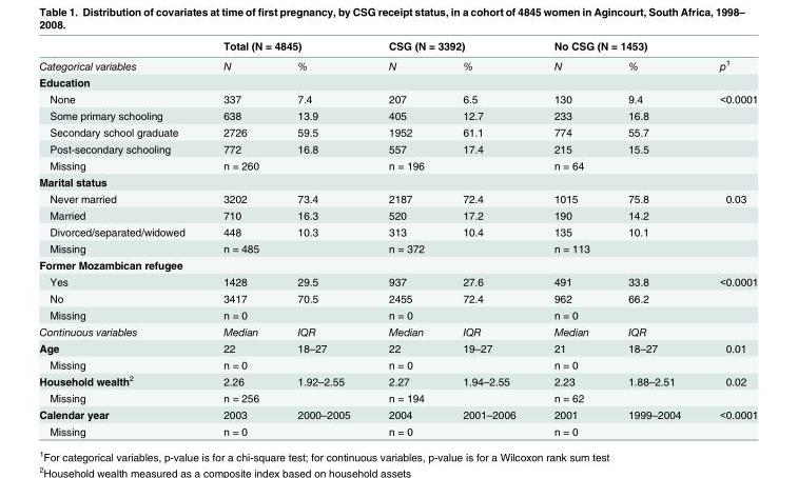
<table><thead><tr><td rowspan="2">Categorical variables</td><td colspan="2">Total (N = 4845)</td><td colspan="2">CSG (N = 3392)</td><td colspan="2">No CSG (N = 1453)</td><td rowspan="2">p<sup>1</sup></td></tr><tr><td>N</td><td>%</td><td>N</td><td>%</td><td>N</td><td>%</td></tr></thead><tbody><tr><td colspan="8">Education</td></tr><tr><td>None</td><td>337</td><td>7.4</td><td>207</td><td>6.5</td><td>130</td><td>9.4</td><td>&lt;0.0001</td></tr><tr><td>Some primary schooling</td><td>638</td><td>13.9</td><td>405</td><td>12.7</td><td>233</td><td>16.8</td><td></td></tr><tr><td>Secondary school graduate</td><td>2726</td><td>59.5</td><td>1952</td><td>61.1</td><td>774</td><td>55.7</td><td></td></tr><tr><td>Post-secondary schooling</td><td>772</td><td>16.8</td><td>557</td><td>17.4</td><td>215</td><td>15.5</td><td></td></tr><tr><td>Missing</td><td>n = 260</td><td></td><td>n = 196</td><td></td><td>n = 64</td><td></td><td></td></tr><tr><td colspan="8">Marital status</td></tr><tr><td>Never married</td><td>3202</td><td>73.4</td><td>2187</td><td>72.4</td><td>1015</td><td>75.8</td><td>0.03</td></tr><tr><td>Married</td><td>710</td><td>16.3</td><td>520</td><td>17.2</td><td>190</td><td>14.2</td><td></td></tr><tr><td>Divorced/separated/widowed</td><td>448</td><td>10.3</td><td>313</td><td>10.4</td><td>135</td><td>10.1</td><td></td></tr><tr><td>Missing</td><td>n = 485</td><td></td><td>n = 372</td><td></td><td>n = 113</td><td></td><td></td></tr><tr><td colspan="8">Former Mozambican refugee</td></tr><tr><td>Yes</td><td>1428</td><td>29.5</td><td>937</td><td>27.6</td><td>491</td><td>33.8</td><td>&lt;0.0001</td></tr><tr><td>No</td><td>3417</td><td>70.5</td><td>2455</td><td>72.4</td><td>962</td><td>66.2</td><td></td></tr><tr><td>Missing</td><td>n = 0</td><td></td><td>n = 0</td><td></td><td>n = 0</td><td></td><td></td></tr><tr><td>Continuous variables</td><td>Median</td><td>IQR</td><td>Median</td><td>IQR</td><td>Median</td><td>IQR</td><td></td></tr><tr><td>Age</td><td>22</td><td>18–27</td><td>22</td><td>19–27</td><td>21</td><td>18–27</td><td>0.01</td></tr><tr><td>Missing</td><td>n = 0</td><td></td><td>n = 0</td><td></td><td>n = 0</td><td></td><td></td></tr><tr><td>Household wealth<sup>2</sup></td><td>2.26</td><td>1.92–2.55</td><td>2.27</td><td>1.94–2.55</td><td>2.23</td><td>1.88–2.51</td><td>0.02</td></tr><tr><td>Missing</td><td>n = 256</td><td></td><td>n = 194</td><td></td><td>n = 62</td><td></td><td></td></tr><tr><td>Calendar year</td><td>2003</td><td>2000–2005</td><td>2004</td><td>2001–2006</td><td>2001</td><td>1999–2004</td><td>&lt;0.0001</td></tr><tr><td>Missing</td><td>n = 0</td><td></td><td>n = 0</td><td></td><td>n = 0</td><td></td><td></td></tr></tbody></table>